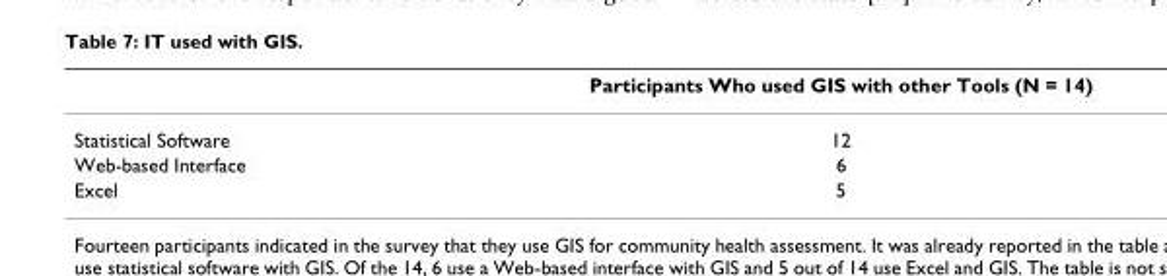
<table><thead><tr><td></td><td>Participants Who used GIS with other Tools (N = 14)</td></tr></thead><tbody><tr><td>Statistical Software</td><td>12</td></tr><tr><td>Web-based Interface</td><td>6</td></tr><tr><td>Excel</td><td>5</td></tr></tbody></table>